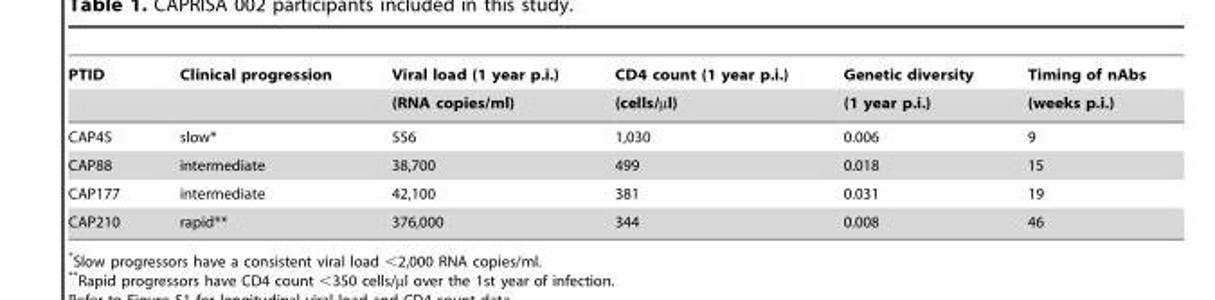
<table><thead><tr><td rowspan="2">PTID</td><td rowspan="2">Clinical progression</td><td rowspan="2">Viral load (1 year p.i.) (RNA copies/ml)</td><td rowspan="2">CD4 count (1 year p.i.) (cells/µl)</td><td rowspan="2">Genetic diversity (1 year p.i.)</td><td rowspan="2">Timing of nAbs (weeks p.i.)</td></tr><tr></tr></thead><tbody><tr><td>CAP45</td><td>slow*</td><td>556</td><td>1,030</td><td>0.006</td><td>9</td></tr><tr><td>CAP88</td><td>intermediate</td><td>38,700</td><td>499</td><td>0.018</td><td>15</td></tr><tr><td>CAP177</td><td>intermediate</td><td>42,100</td><td>381</td><td>0.031</td><td>19</td></tr><tr><td>CAP210</td><td>rapid**</td><td>376,000</td><td>344</td><td>0.008</td><td>46</td></tr></tbody></table>